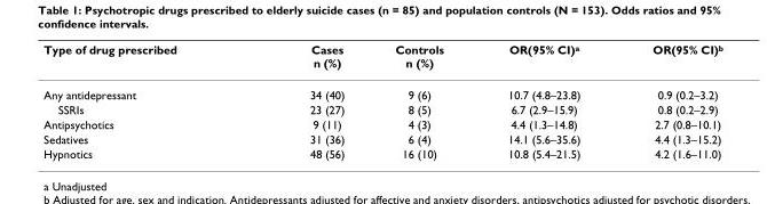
<table><thead><tr><td>Type of drug prescribed</td><td>Cases n (%)</td><td>Controls n (%)</td><td>OR(95% CI)<sup>a</sup></td><td>OR(95% CI)<sup>b</sup></td></tr></thead><tbody><tr><td>Any antidepressant</td><td>34 (40)</td><td>9 (6)</td><td>10.7 (4.8–23.8)</td><td>0.9 (0.2–3.2)</td></tr><tr><td>SSRIs</td><td>23 (27)</td><td>8 (5)</td><td>6.7 (2.9–15.9)</td><td>0.8 (0.2–2.9)</td></tr><tr><td>Antipsychotics</td><td>9 (11)</td><td>4 (3)</td><td>4.4 (1.3–14.8)</td><td>2.7 (0.8–10.1)</td></tr><tr><td>Sedatives</td><td>31 (36)</td><td>6 (4)</td><td>14.1 (5.6–35.6)</td><td>4.4 (1.3–15.2)</td></tr><tr><td>Hypnotics</td><td>48 (56)</td><td>16 (10)</td><td>10.8 (5.4–21.5)</td><td>4.2 (1.6–11.0)</td></tr></tbody></table>